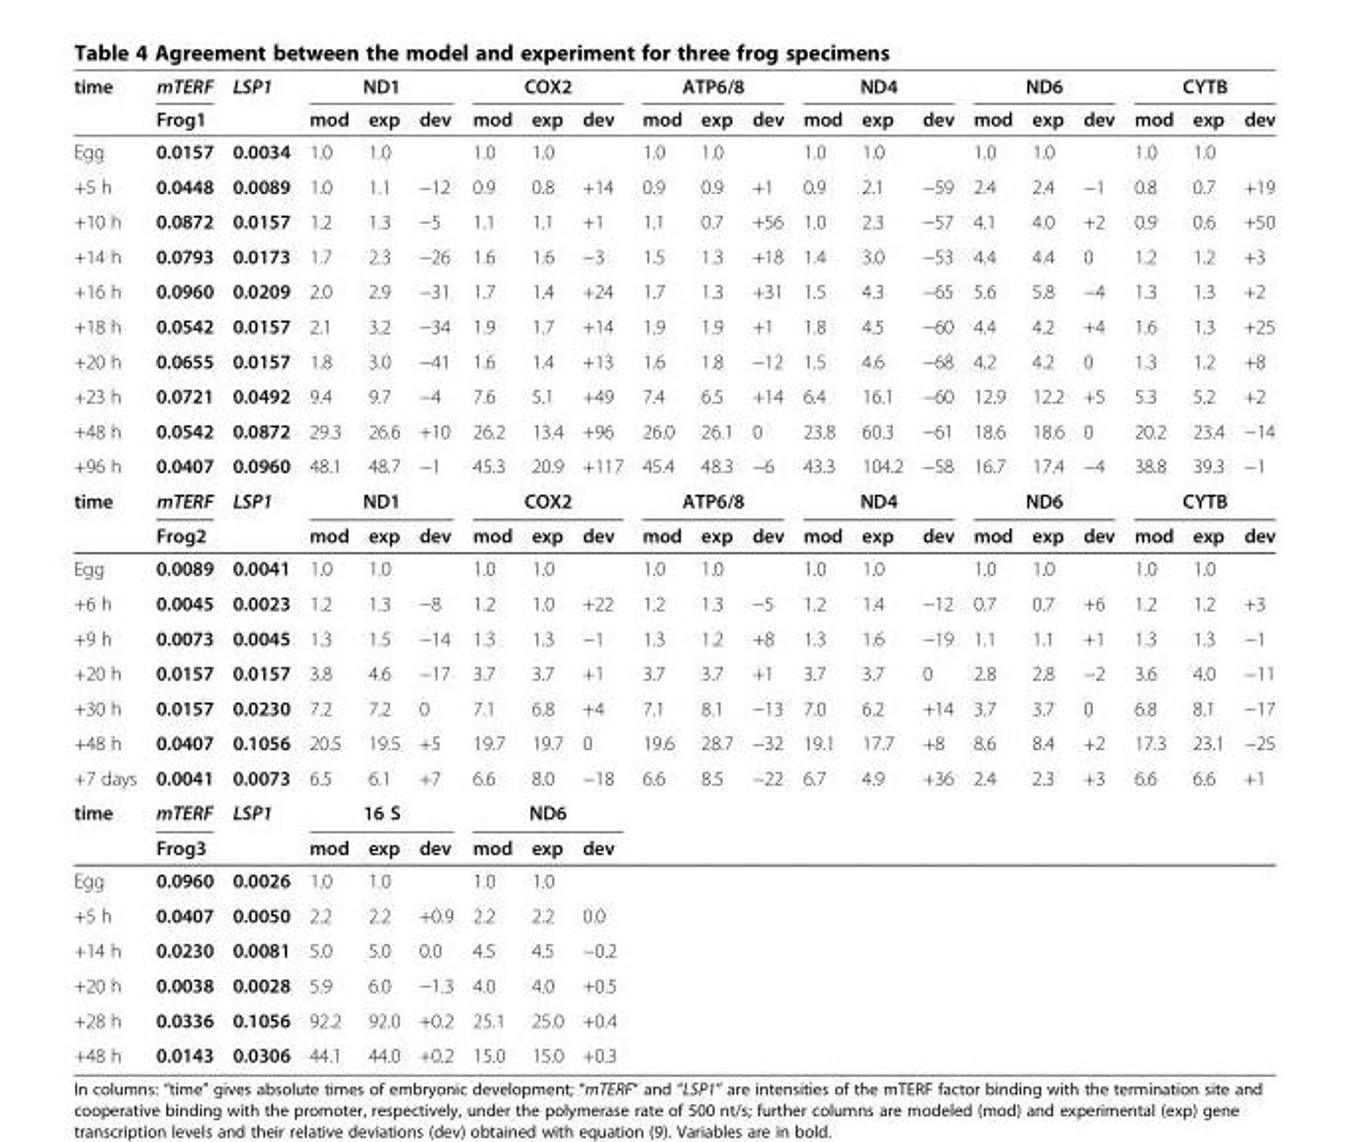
<table><thead><tr><td rowspan="2">time</td><td rowspan="2">mTERF Frog1</td><td rowspan="2">LSP1</td><td colspan="3">ND1</td><td colspan="3">COX2</td><td colspan="3">ATP6/8</td><td colspan="3">ND4</td><td colspan="3">ND6</td><td colspan="3">CYTB</td></tr><tr><td>mod</td><td>exp</td><td>dev</td><td>mod</td><td>exp</td><td>dev</td><td>mod</td><td>exp</td><td>dev</td><td>mod</td><td>exp</td><td>dev</td><td>mod</td><td>exp</td><td>dev</td><td>mod</td><td>exp</td><td>dev</td></tr></thead><tbody><tr><td>Egg</td><td>0.0157</td><td>0.0034</td><td>1.0</td><td>1.0</td><td></td><td>1.0</td><td>1.0</td><td></td><td>1.0</td><td>1.0</td><td></td><td>1.0</td><td>1.0</td><td></td><td>1.0</td><td>1.0</td><td></td><td>1.0</td><td>1.0</td><td></td></tr><tr><td>+5 h</td><td>0.0448</td><td>0.0089</td><td>1.0</td><td>1.1</td><td>−12</td><td>0.9</td><td>0.8</td><td>+14</td><td>0.9</td><td>0.9</td><td>+1</td><td>0.9</td><td>2.1</td><td>−59</td><td>2.4</td><td>2.4</td><td>−1</td><td>0.8</td><td>0.7</td><td>+19</td></tr><tr><td>+10 h</td><td>0.0872</td><td>0.0157</td><td>1.2</td><td>1.3</td><td>−5</td><td>1.1</td><td>1.1</td><td>+1</td><td>1.1</td><td>0.7</td><td>+56</td><td>1.0</td><td>2.3</td><td>−57</td><td>4.1</td><td>4.0</td><td>+2</td><td>0.9</td><td>0.6</td><td>+50</td></tr><tr><td>+14 h</td><td>0.0793</td><td>0.0173</td><td>1.7</td><td>2.3</td><td>−26</td><td>1.6</td><td>1.6</td><td>−3</td><td>1.5</td><td>1.3</td><td>+18</td><td>1.4</td><td>3.0</td><td>−53</td><td>4.4</td><td>4.4</td><td>0</td><td>1.2</td><td>1.2</td><td>+3</td></tr><tr><td>+16 h</td><td>0.0960</td><td>0.0209</td><td>2.0</td><td>2.9</td><td>−31</td><td>1.7</td><td>1.4</td><td>+24</td><td>1.7</td><td>1.3</td><td>+31</td><td>1.5</td><td>4.3</td><td>−65</td><td>5.6</td><td>5.8</td><td>−4</td><td>1.3</td><td>1.3</td><td>+2</td></tr><tr><td>+18 h</td><td>0.0542</td><td>0.0157</td><td>2.1</td><td>3.2</td><td>−34</td><td>1.9</td><td>1.7</td><td>+14</td><td>1.9</td><td>1.9</td><td>+1</td><td>1.8</td><td>4.5</td><td>−60</td><td>4.4</td><td>4.2</td><td>+4</td><td>1.6</td><td>1.3</td><td>+25</td></tr><tr><td>+20 h</td><td>0.0655</td><td>0.0157</td><td>1.8</td><td>3.0</td><td>−41</td><td>1.6</td><td>1.4</td><td>+13</td><td>1.6</td><td>1.8</td><td>−12</td><td>1.5</td><td>4.6</td><td>−68</td><td>4.2</td><td>4.2</td><td>0</td><td>1.3</td><td>1.2</td><td>+8</td></tr><tr><td>+23 h</td><td>0.0721</td><td>0.0492</td><td>9.4</td><td>9.7</td><td>−4</td><td>7.6</td><td>5.1</td><td>+49</td><td>7.4</td><td>6.5</td><td>+14</td><td>6.4</td><td>16.1</td><td>−60</td><td>12.9</td><td>12.2</td><td>+5</td><td>5.3</td><td>5.2</td><td>+2</td></tr><tr><td>+48 h</td><td>0.0542</td><td>0.0872</td><td>29.3</td><td>26.6</td><td>+10</td><td>26.2</td><td>13.4</td><td>+96</td><td>26.0</td><td>26.1</td><td>0</td><td>23.8</td><td>60.3</td><td>−61</td><td>18.6</td><td>18.6</td><td>0</td><td>20.2</td><td>23.4</td><td>−14</td></tr><tr><td>+96 h</td><td>0.0407</td><td>0.0960</td><td>48.1</td><td>48.7</td><td>−1</td><td>45.3</td><td>20.9</td><td>+117</td><td>45.4</td><td>48.3</td><td>−6</td><td>43.3</td><td>104.2</td><td>−58</td><td>16.7</td><td>17.4</td><td>−4</td><td>38.8</td><td>39.3</td><td>−1</td></tr><tr><td rowspan="2">time</td><td>mTERF</td><td>LSP1</td><td colspan="3">ND1</td><td colspan="3">COX2</td><td colspan="3">ATP6/8</td><td colspan="3">ND4</td><td colspan="3">ND6</td><td colspan="3">CYTB</td></tr><tr><td>Frog2</td><td></td><td>mod</td><td>exp</td><td>dev</td><td>mod</td><td>exp</td><td>dev</td><td>mod</td><td>exp</td><td>dev</td><td>mod</td><td>exp</td><td>dev</td><td>mod</td><td>exp</td><td>dev</td><td>mod</td><td>exp</td><td>dev</td></tr><tr><td>Egg</td><td>0.0089</td><td>0.0041</td><td>1.0</td><td>1.0</td><td></td><td>1.0</td><td>1.0</td><td></td><td>1.0</td><td>1.0</td><td></td><td>1.0</td><td>1.0</td><td></td><td>1.0</td><td>1.0</td><td></td><td>1.0</td><td>1.0</td><td></td></tr><tr><td>+6 h</td><td>0.0045</td><td>0.0023</td><td>1.2</td><td>1.3</td><td>−8</td><td>1.2</td><td>1.0</td><td>+22</td><td>1.2</td><td>1.3</td><td>−5</td><td>1.2</td><td>1.4</td><td>−12</td><td>0.7</td><td>0.7</td><td>+6</td><td>1.2</td><td>1.2</td><td>+3</td></tr><tr><td>+9 h</td><td>0.0073</td><td>0.0045</td><td>1.3</td><td>1.5</td><td>−14</td><td>1.3</td><td>1.3</td><td>−1</td><td>1.3</td><td>1.2</td><td>+8</td><td>1.3</td><td>1.6</td><td>−19</td><td>1.1</td><td>1.1</td><td>+1</td><td>1.3</td><td>1.3</td><td>−1</td></tr><tr><td>+20 h</td><td>0.0157</td><td>0.0157</td><td>3.8</td><td>4.6</td><td>−17</td><td>3.7</td><td>3.7</td><td>+1</td><td>3.7</td><td>3.7</td><td>+1</td><td>3.7</td><td>3.7</td><td>0</td><td>2.8</td><td>2.8</td><td>−2</td><td>3.6</td><td>4.0</td><td>−11</td></tr><tr><td>+30 h</td><td>0.0157</td><td>0.0230</td><td>7.2</td><td>7.2</td><td>0</td><td>7.1</td><td>6.8</td><td>+4</td><td>7.1</td><td>8.1</td><td>−13</td><td>7.0</td><td>6.2</td><td>+14</td><td>3.7</td><td>3.7</td><td>0</td><td>6.8</td><td>8.1</td><td>−17</td></tr><tr><td>+48 h</td><td>0.0407</td><td>0.1056</td><td>20.5</td><td>19.5</td><td>+5</td><td>19.7</td><td>19.7</td><td>0</td><td>19.6</td><td>28.7</td><td>−32</td><td>19.1</td><td>17.7</td><td>+8</td><td>8.6</td><td>8.4</td><td>+2</td><td>17.3</td><td>23.1</td><td>−25</td></tr><tr><td>+7 days</td><td>0.0041</td><td>0.0073</td><td>6.5</td><td>6.1</td><td>+7</td><td>6.6</td><td>8.0</td><td>−18</td><td>6.6</td><td>8.5</td><td>−22</td><td>6.7</td><td>4.9</td><td>+36</td><td>2.4</td><td>2.3</td><td>+3</td><td>6.6</td><td>6.6</td><td>+1</td></tr><tr><td rowspan="2">time</td><td>mTERF</td><td>LSP1</td><td colspan="3">16 S</td><td colspan="3">ND6</td><td></td><td></td><td></td><td></td><td></td><td></td><td></td><td></td><td></td><td></td><td></td><td></td></tr><tr><td>Frog3</td><td></td><td>mod</td><td>exp</td><td>dev</td><td>mod</td><td>exp</td><td>dev</td><td></td><td></td><td></td><td></td><td></td><td></td><td></td><td></td><td></td><td></td><td></td><td></td></tr><tr><td>Egg</td><td>0.0960</td><td>0.0026</td><td>1.0</td><td>1.0</td><td></td><td>1.0</td><td>1.0</td><td></td><td></td><td></td><td></td><td></td><td></td><td></td><td></td><td></td><td></td><td></td><td></td><td></td></tr><tr><td>+5 h</td><td>0.0407</td><td>0.0050</td><td>2.2</td><td>2.2</td><td>+0.9</td><td>2.2</td><td>2.2</td><td>0.0</td><td></td><td></td><td></td><td></td><td></td><td></td><td></td><td></td><td></td><td></td><td></td><td></td></tr><tr><td>+14 h</td><td>0.0230</td><td>0.0081</td><td>5.0</td><td>5.0</td><td>0.0</td><td>4.5</td><td>4.5</td><td>−0.2</td><td></td><td></td><td></td><td></td><td></td><td></td><td></td><td></td><td></td><td></td><td></td><td></td></tr><tr><td>+20 h</td><td>0.0038</td><td>0.0028</td><td>5.9</td><td>6.0</td><td>−1.3</td><td>4.0</td><td>4.0</td><td>+0.5</td><td></td><td></td><td></td><td></td><td></td><td></td><td></td><td></td><td></td><td></td><td></td><td></td></tr><tr><td>+28 h</td><td>0.0336</td><td>0.1056</td><td>92.2</td><td>92.0</td><td>+0.2</td><td>25.1</td><td>25.0</td><td>+0.4</td><td></td><td></td><td></td><td></td><td></td><td></td><td></td><td></td><td></td><td></td><td></td><td></td></tr><tr><td>+48 h</td><td>0.0143</td><td>0.0306</td><td>44.1</td><td>44.0</td><td>+0.2</td><td>15.0</td><td>15.0</td><td>+0.3</td><td></td><td></td><td></td><td></td><td></td><td></td><td></td><td></td><td></td><td></td><td></td><td></td></tr></tbody></table>